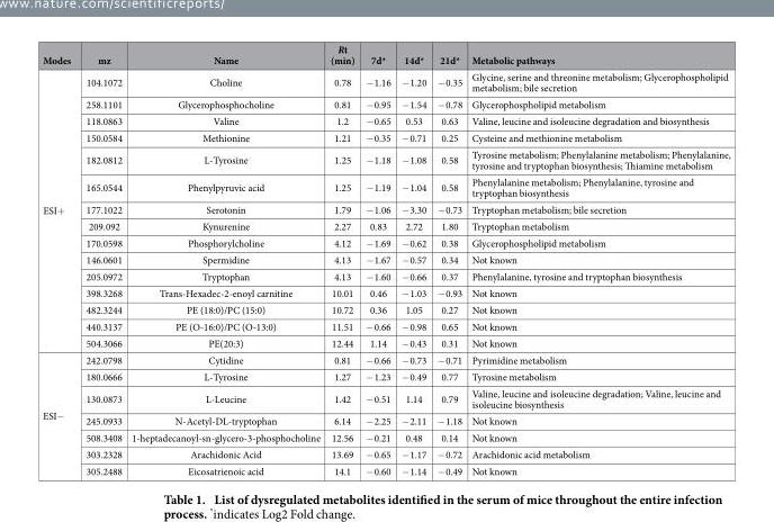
<table><thead><tr><td>Modes</td><td>mz</td><td>Name</td><td>Rt (min)</td><td>7d*</td><td>14d*</td><td>21d*</td><td>Metabolic pathways</td></tr></thead><tbody><tr><td rowspan="15">ESI+</td><td>104.1072</td><td>Choline</td><td>0.78</td><td>− 1.16</td><td>− 1.20</td><td>− 0.35</td><td>Glycine, serine and threonine metabolism; Glycerophospholipid metabolism; bile secretion</td></tr><tr><td>258.1101</td><td>Glycerophosphocholine</td><td>0.81</td><td>− 0.95</td><td>− 1.54</td><td>− 0.78</td><td>Glycerophospholipid metabolism</td></tr><tr><td>118.0863</td><td>Valine</td><td>1.2</td><td>− 0.65</td><td>0.53</td><td>0.63</td><td>Valine, leucine and isoleucine degradation and biosynthesis</td></tr><tr><td>150.0584</td><td>Methionine</td><td>1.21</td><td>− 0.35</td><td>− 0.71</td><td>0.25</td><td>Cysteine and methionine metabolism</td></tr><tr><td>182.0812</td><td>L-Tyrosine</td><td>1.25</td><td>− 1.18</td><td>− 1.08</td><td>0.58</td><td>Tyrosine metabolism; Phenylalanine metabolism; Phenylalanine, tyrosine and tryptophan biosynthesis; Thiamine metabolism</td></tr><tr><td>165.0544</td><td>Phenylpyruvic acid</td><td>1.25</td><td>− 1.19</td><td>− 1.04</td><td>0.58</td><td>Phenylalanine metabolism; Phenylalanine, tyrosine and tryptophan biosynthesis</td></tr><tr><td>177.1022</td><td>Serotonin</td><td>1.79</td><td>− 1.06</td><td>− 3.30</td><td>− 0.73</td><td>Tryptophan metabolism; bile secretion</td></tr><tr><td>209.092</td><td>Kynurenine</td><td>2.27</td><td>0.83</td><td>2.72</td><td>1.80</td><td>Tryptophan metabolism</td></tr><tr><td>170.0598</td><td>Phosphorylcholine</td><td>4.12</td><td>− 1.69</td><td>− 0.62</td><td>0.38</td><td>Glycerophospholipid metabolism</td></tr><tr><td>146.0601</td><td>Spermidine</td><td>4.13</td><td>− 1.67</td><td>− 0.57</td><td>0.34</td><td>Not known</td></tr><tr><td>205.0972</td><td>Tryptophan</td><td>4.13</td><td>− 1.60</td><td>− 0.66</td><td>0.37</td><td>Phenylalanine, tyrosine and tryptophan biosynthesis</td></tr><tr><td>398.3268</td><td>Trans-Hexadec-2-enoyl carnitine</td><td>10.01</td><td>0.46</td><td>− 1.03</td><td>− 0.93</td><td>Not known</td></tr><tr><td>482.3244</td><td>PE (18:0)/PC (15:0)</td><td>10.72</td><td>0.36</td><td>1.05</td><td>0.27</td><td>Not known</td></tr><tr><td>440.3137</td><td>PE (O-16:0)/PC (O-13:0)</td><td>11.51</td><td>− 0.66</td><td>− 0.98</td><td>0.65</td><td>Not known</td></tr><tr><td>504.3066</td><td>PE(20:3)</td><td>12.44</td><td>1.14</td><td>− 0.43</td><td>0.31</td><td>Not known</td></tr><tr><td rowspan="7">ESI−</td><td>242.0798</td><td>Cytidine</td><td>0.81</td><td>− 0.66</td><td>− 0.73</td><td>− 0.71</td><td>Pyrimidine metabolism</td></tr><tr><td>180.0666</td><td>L-Tyrosine</td><td>1.27</td><td>− 1.23</td><td>− 0.49</td><td>0.77</td><td>Tyrosine metabolism</td></tr><tr><td>130.0873</td><td>L-Leucine</td><td>1.42</td><td>− 0.51</td><td>1.14</td><td>0.79</td><td>Valine, leucine and isoleucine degradation; Valine, leucine and isoleucine biosynthesis</td></tr><tr><td>245.0933</td><td>N-Acetyl-DL-tryptophan</td><td>6.14</td><td>− 2.25</td><td>− 2.11</td><td>− 1.18</td><td>Not known</td></tr><tr><td>508.3408</td><td>1-heptadecanoyl-sn-glycero-3-phosphocholine</td><td>12.56</td><td>− 0.21</td><td>0.48</td><td>0.14</td><td>Not known</td></tr><tr><td>303.2328</td><td>Arachidonic Acid</td><td>13.69</td><td>− 0.65</td><td>− 1.17</td><td>− 0.72</td><td>Arachidonic acid metabolism</td></tr><tr><td>305.2488</td><td>Eicosatrienoic acid</td><td>14.1</td><td>− 0.60</td><td>− 1.14</td><td>− 0.49</td><td>Not known</td></tr></tbody></table>